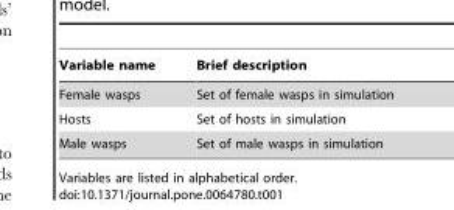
<table><thead><tr><td>Variable name</td><td>Brief description</td></tr></thead><tbody><tr><td>Female wasps</td><td>Set of female wasps in simulation</td></tr><tr><td>Hosts</td><td>Set of hosts in simulation</td></tr><tr><td>Male wasps</td><td>Set of male wasps in simulation</td></tr></tbody></table>